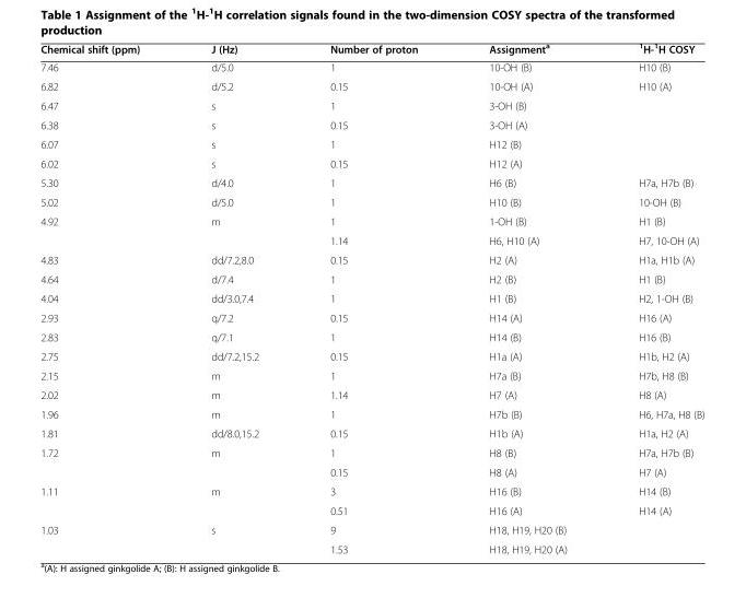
<table><thead><tr><td>Chemical shift (ppm)</td><td>J (Hz)</td><td>Number of proton</td><td>Assignment<sup>a</sup></td><td><sup>1</sup>H-<sup>1</sup>H COSY</td></tr></thead><tbody><tr><td>7.46</td><td>d/5.0</td><td>1</td><td>10-OH (B)</td><td>H10 (B)</td></tr><tr><td>6.82</td><td>d/5.2</td><td>0.15</td><td>10-OH (A)</td><td>H10 (A)</td></tr><tr><td>6.47</td><td>s</td><td>1</td><td>3-OH (B)</td><td></td></tr><tr><td>6.38</td><td>s</td><td>0.15</td><td>3-OH (A)</td><td></td></tr><tr><td>6.07</td><td>s</td><td>1</td><td>H12 (B)</td><td></td></tr><tr><td>6.02</td><td>s</td><td>0.15</td><td>H12 (A)</td><td></td></tr><tr><td>5.30</td><td>d/4.0</td><td>1</td><td>H6 (B)</td><td>H7a, H7b (B)</td></tr><tr><td>5.02</td><td>d/5.0</td><td>1</td><td>H10 (B)</td><td>10-OH (B)</td></tr><tr><td rowspan="2">4.92</td><td rowspan="2">m</td><td>1</td><td>1-OH (B)</td><td>H1 (B)</td></tr><tr><td>1.14</td><td>H6, H10 (A)</td><td>H7, 10-OH (A)</td></tr><tr><td>4.83</td><td>dd/7.2,8.0</td><td>0.15</td><td>H2 (A)</td><td>H1a, H1b (A)</td></tr><tr><td>4.64</td><td>d/7.4</td><td>1</td><td>H2 (B)</td><td>H1 (B)</td></tr><tr><td>4.04</td><td>dd/3.0,7.4</td><td>1</td><td>H1 (B)</td><td>H2, 1-OH (B)</td></tr><tr><td>2.93</td><td>q/7.2</td><td>0.15</td><td>H14 (A)</td><td>H16 (A)</td></tr><tr><td>2.83</td><td>q/7.1</td><td>1</td><td>H14 (B)</td><td>H16 (B)</td></tr><tr><td>2.75</td><td>dd/7.2,15.2</td><td>0.15</td><td>H1a (A)</td><td>H1b, H2 (A)</td></tr><tr><td>2.15</td><td>m</td><td>1</td><td>H7a (B)</td><td>H7b, H8 (B)</td></tr><tr><td>2.02</td><td>m</td><td>1.14</td><td>H7 (A)</td><td>H8 (A)</td></tr><tr><td>1.96</td><td>m</td><td>1</td><td>H7b (B)</td><td>H6, H7a, H8 (B)</td></tr><tr><td>1.81</td><td>dd/8.0,15.2</td><td>0.15</td><td>H1b (A)</td><td>H1a, H2 (A)</td></tr><tr><td rowspan="2">1.72</td><td rowspan="2">m</td><td>1</td><td>H8 (B)</td><td>H7a, H7b (B)</td></tr><tr><td>0.15</td><td>H8 (A)</td><td>H7 (A)</td></tr><tr><td rowspan="2">1.11</td><td rowspan="2">m</td><td>3</td><td>H16 (B)</td><td>H14 (B)</td></tr><tr><td>0.51</td><td>H16 (A)</td><td>H14 (A)</td></tr><tr><td rowspan="2">1.03</td><td rowspan="2">s</td><td>9</td><td>H18, H19, H20 (B)</td><td rowspan="2"></td></tr><tr><td>1.53</td><td>H18, H19, H20 (A)</td></tr></tbody></table>